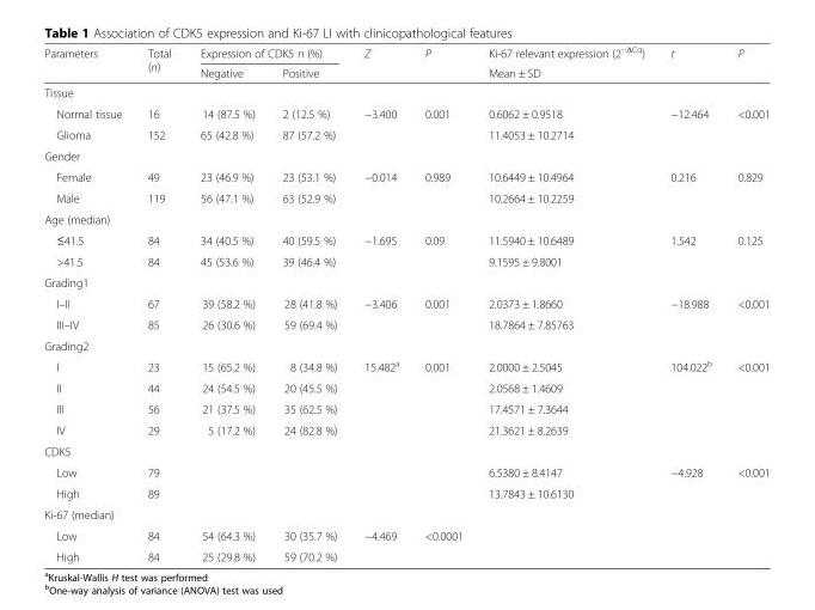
<table><thead><tr><td rowspan="2">Parameters</td><td rowspan="2">Total (n)</td><td colspan="2">Expression of CDK5 n (%)</td><td rowspan="2">Z</td><td rowspan="2">P</td><td rowspan="2">Ki-67 relevant expression (2<sup>−ΔCq</sup>) Mean ± SD</td><td rowspan="2">t</td><td rowspan="2">P</td></tr><tr><td>Negative</td><td>Positive</td></tr></thead><tbody><tr><td colspan="9">Tissue</td></tr><tr><td>Normal tissue</td><td>16</td><td>14 (87.5 %)</td><td>2 (12.5 %)</td><td rowspan="2">−3.400</td><td rowspan="2">0.001</td><td>0.6062 ± 0.9518</td><td rowspan="2">−12.464</td><td rowspan="2">&lt;0.001</td></tr><tr><td>Glioma</td><td>152</td><td>65 (42.8 %)</td><td>87 (57.2 %)</td><td>11.4053 ± 10.2714</td></tr><tr><td colspan="9">Gender</td></tr><tr><td>Female</td><td>49</td><td>23 (46.9 %)</td><td>23 (53.1 %)</td><td rowspan="2">−0.014</td><td rowspan="2">0.989</td><td>10.6449 ± 10.4964</td><td rowspan="2">0.216</td><td rowspan="2">0.829</td></tr><tr><td>Male</td><td>119</td><td>56 (47.1 %)</td><td>63 (52.9 %)</td><td>10.2664 ± 10.2259</td></tr><tr><td colspan="9">Age (median)</td></tr><tr><td>≤41.5</td><td>84</td><td>34 (40.5 %)</td><td>40 (59.5 %)</td><td rowspan="2">−1.695</td><td rowspan="2">0.09</td><td>11.5940 ± 10.6489</td><td rowspan="2">1.542</td><td rowspan="2">0.125</td></tr><tr><td>&gt;41.5</td><td>84</td><td>45 (53.6 %)</td><td>39 (46.4 %)</td><td>9.1595 ± 9.8001</td></tr><tr><td colspan="9">Grading1</td></tr><tr><td>I–II</td><td>67</td><td>39 (58.2 %)</td><td>28 (41.8 %)</td><td rowspan="2">−3.406</td><td rowspan="2">0.001</td><td>2.0373 ± 1.8660</td><td rowspan="2">−18.988</td><td rowspan="2">&lt;0.001</td></tr><tr><td>III–IV</td><td>85</td><td>26 (30.6 %)</td><td>59 (69.4 %)</td><td>18.7864 ± 7.85763</td></tr><tr><td colspan="9">Grading2</td></tr><tr><td>I</td><td>23</td><td>15 (65.2 %)</td><td>8 (34.8 %)</td><td rowspan="4">15.482<sup>a</sup></td><td rowspan="4">0.001</td><td>2.0000 ± 2.5045</td><td rowspan="4">104.022<sup>b</sup></td><td rowspan="4">&lt;0.001</td></tr><tr><td>II</td><td>44</td><td>24 (54.5 %)</td><td>20 (45.5 %)</td><td>2.0568 ± 1.4609</td></tr><tr><td>III</td><td>56</td><td>21 (37.5 %)</td><td>35 (62.5 %)</td><td>17.4571 ± 7.3644</td></tr><tr><td>IV</td><td>29</td><td>5 (17.2 %)</td><td>24 (82.8 %)</td><td>21.3621 ± 8.2639</td></tr><tr><td colspan="9">CDK5</td></tr><tr><td>Low</td><td>79</td><td></td><td></td><td rowspan="2"></td><td rowspan="2"></td><td>6.5380 ± 8.4147</td><td rowspan="2">−4.928</td><td rowspan="2">&lt;0.001</td></tr><tr><td>High</td><td>89</td><td></td><td></td><td>13.7843 ± 10.6130</td></tr><tr><td colspan="9">Ki-67 (median)</td></tr><tr><td>Low</td><td>84</td><td>54 (64.3 %)</td><td>30 (35.7 %)</td><td rowspan="2">−4.469</td><td rowspan="2">&lt;0.0001</td><td></td><td></td><td></td></tr><tr><td>High</td><td>84</td><td>25 (29.8 %)</td><td>59 (70.2 %)</td><td></td><td></td><td></td></tr></tbody></table>